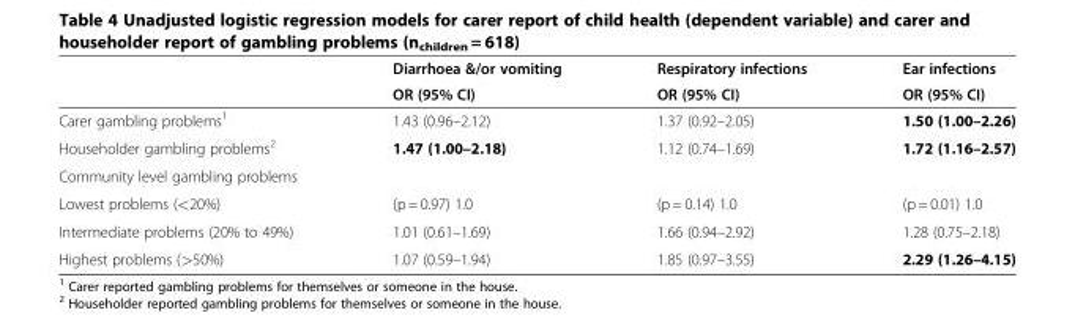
<table><thead><tr><td rowspan="2"></td><td rowspan="2">Diarrhoea &amp;/or vomiting OR (95% CI)</td><td rowspan="2">Respiratory infections OR (95% CI)</td><td rowspan="2">Ear infections OR (95% CI)</td></tr><tr></tr></thead><tbody><tr><td>Carer gambling problems<sup>1</sup></td><td>1.43 (0.96–2.12)</td><td>1.37 (0.92–2.05)</td><td>1.50 (1.00–2.26)</td></tr><tr><td>Householder gambling problems<sup>2</sup></td><td>1.47 (1.00–2.18)</td><td>1.12 (0.74–1.69)</td><td>1.72 (1.16–2.57)</td></tr><tr><td colspan="4">Community level gambling problems</td></tr><tr><td>Lowest problems (&lt;20%)</td><td>(p = 0.97) 1.0</td><td>(p = 0.14) 1.0</td><td>(p = 0.01) 1.0</td></tr><tr><td>Intermediate problems (20% to 49%)</td><td>1.01 (0.61–1.69)</td><td>1.66 (0.94–2.92)</td><td>1.28 (0.75–2.18)</td></tr><tr><td>Highest problems (&gt;50%)</td><td>1.07 (0.59–1.94)</td><td>1.85 (0.97–3.55)</td><td>2.29 (1.26–4.15)</td></tr></tbody></table>